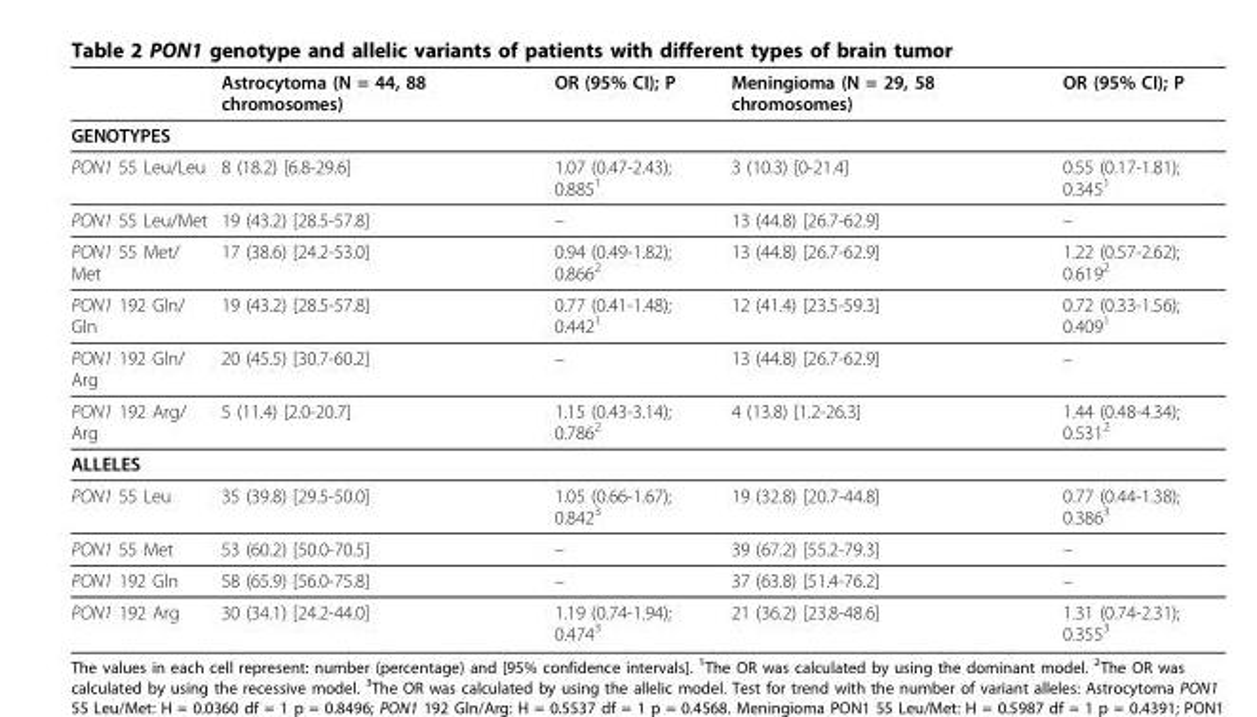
<table><thead><tr><td></td><td>Astrocytoma (N = 44, 88 chromosomes)</td><td>OR (95% CI); P</td><td>Meningioma (N = 29, 58 chromosomes)</td><td>OR (95% CI); P</td></tr></thead><tbody><tr><td colspan="5">GENOTYPES</td></tr><tr><td>PON1 55 Leu/Leu</td><td>8 (18.2) [6.8-29.6]</td><td>1.07 (0.47-2.43); 0.8851</td><td>3 (10.3) [0-21.4]</td><td>0.55 (0.17-1.81); 0.3451</td></tr><tr><td>PON1 55 Leu/Met</td><td>19 (43.2) [28.5-57.8]</td><td>–</td><td>13 (44.8) [26.7-62.9]</td><td>–</td></tr><tr><td>PON1 55 Met/ Met</td><td>17 (38.6) [24.2-53.0]</td><td>0.94 (0.49-1.82); 0.8662</td><td>13 (44.8) [26.7-62.9]</td><td>1.22 (0.57-2.62); 0.6192</td></tr><tr><td>PON1 192 Gln/ Gln</td><td>19 (43.2) [28.5-57.8]</td><td>0.77 (0.41-1.48); 0.4421</td><td>12 (41.4) [23.5-59.3]</td><td>0.72 (0.33-1.56); 0.4091</td></tr><tr><td>PON1 192 Gln/ Arg</td><td>20 (45.5) [30.7-60.2]</td><td>–</td><td>13 (44.8) [26.7-62.9]</td><td>–</td></tr><tr><td>PON1 192 Arg/ Arg</td><td>5 (11.4) [2.0-20.7]</td><td>1.15 (0.43-3.14); 0.7862</td><td>4 (13.8) [1.2-26.3]</td><td>1.44 (0.48-4.34); 0.5312</td></tr><tr><td colspan="5">ALLELES</td></tr><tr><td>PON1 55 Leu</td><td>35 (39.8) [29.5-50.0]</td><td>1.05 (0.66-1.67); 0.8423</td><td>19 (32.8) [20.7-44.8]</td><td>0.77 (0.44-1.38); 0.3863</td></tr><tr><td>PON1 55 Met</td><td>53 (60.2) [50.0-70.5]</td><td>–</td><td>39 (67.2) [55.2-79.3]</td><td>–</td></tr><tr><td>PON1 192 Gln</td><td>58 (65.9) [56.0-75.8]</td><td>–</td><td>37 (63.8) [51.4-76.2]</td><td>–</td></tr><tr><td>PON1 192 Arg</td><td>30 (34.1) [24.2-44.0]</td><td>1.19 (0.74-1.94); 0.4743</td><td>21 (36.2) [23.8-48.6]</td><td>1.31 (0.74-2.31); 0.3553</td></tr></tbody></table>